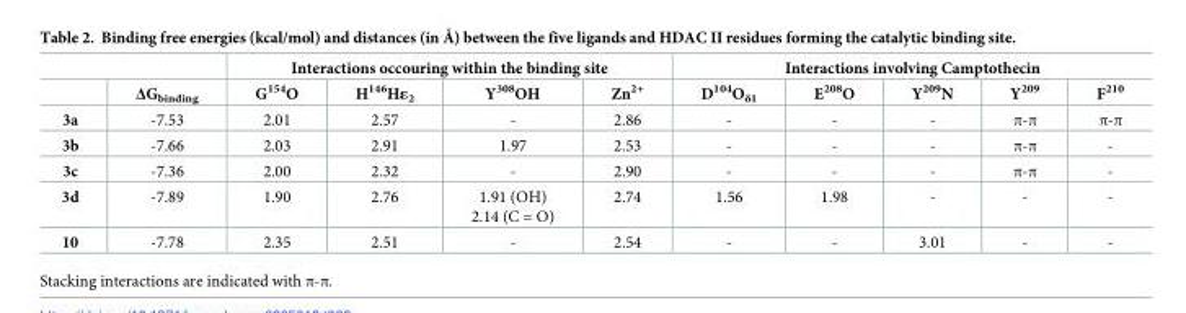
<table><thead><tr><td rowspan="2"></td><td rowspan="2">ΔG<sub>binding</sub></td><td colspan="4">Interactions occouring within the binding site</td><td colspan="5">Interactions involving Camptothecin</td></tr><tr><td>G<sup>154</sup>O</td><td>H<sup>146</sup>Hε<sub>2</sub></td><td>Y<sup>308</sup>OH</td><td>Zn<sup>2+</sup></td><td>D<sup>104</sup>O<sub>δ1</sub></td><td>E<sup>208</sup>O</td><td>Y<sup>209</sup>N</td><td>Y<sup>209</sup></td><td>F<sup>210</sup></td></tr></thead><tbody><tr><td>3a</td><td>-7.53</td><td>2.01</td><td>2.57</td><td>-</td><td>2.86</td><td>-</td><td>-</td><td>-</td><td>π-π</td><td>π-π</td></tr><tr><td>3b</td><td>-7.66</td><td>2.03</td><td>2.91</td><td>1.97</td><td>2.53</td><td>-</td><td>-</td><td>-</td><td>π-π</td><td>-</td></tr><tr><td>3c</td><td>-7.36</td><td>2.00</td><td>2.32</td><td>-</td><td>2.90</td><td>-</td><td>-</td><td>-</td><td>π-π</td><td>-</td></tr><tr><td>3d</td><td>-7.89</td><td>1.90</td><td>2.76</td><td>1.91 (OH) 2.14 (C = O)</td><td>2.74</td><td>1.56</td><td>1.98</td><td>-</td><td>-</td><td>-</td></tr><tr><td>10</td><td>-7.78</td><td>2.35</td><td>2.51</td><td>-</td><td>2.54</td><td>-</td><td>-</td><td>3.01</td><td>-</td><td>-</td></tr></tbody></table>